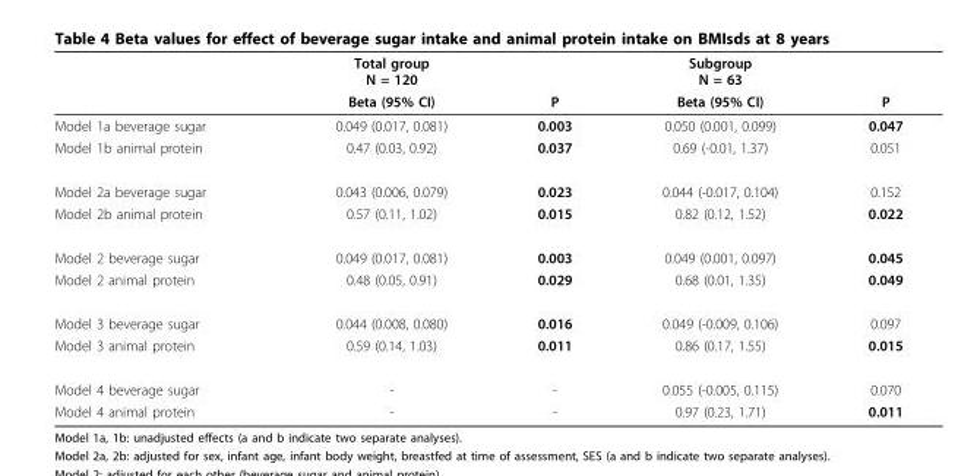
<table><thead><tr><td rowspan="2"></td><td rowspan="2">Total group N = 120 Beta (95% CI)</td><td rowspan="2">P</td><td rowspan="2">Subgroup N = 63 Beta (95% CI)</td><td rowspan="2">P</td></tr><tr></tr></thead><tbody><tr><td>Model 1a beverage sugar</td><td>0.049 (0.017, 0.081)</td><td>0.003</td><td>0.050 (0.001, 0.099)</td><td>0.047</td></tr><tr><td>Model 1b animal protein</td><td>0.47 (0.03, 0.92)</td><td>0.037</td><td>0.69 (-0.01, 1.37)</td><td>0.051</td></tr><tr><td>Model 2a beverage sugar</td><td>0.043 (0.006, 0.079)</td><td>0.023</td><td>0.044 (-0.017, 0.104)</td><td>0.152</td></tr><tr><td>Model 2b animal protein</td><td>0.57 (0.11, 1.02)</td><td>0.015</td><td>0.82 (0.12, 1.52)</td><td>0.022</td></tr><tr><td>Model 2 beverage sugar</td><td>0.049 (0.017, 0.081)</td><td>0.003</td><td>0.049 (0.001, 0.097)</td><td>0.045</td></tr><tr><td>Model 2 animal protein</td><td>0.48 (0.05, 0.91)</td><td>0.029</td><td>0.68 (0.01, 1.35)</td><td>0.049</td></tr><tr><td>Model 3 beverage sugar</td><td>0.044 (0.008, 0.080)</td><td>0.016</td><td>0.049 (-0.009, 0.106)</td><td>0.097</td></tr><tr><td>Model 3 animal protein</td><td>0.59 (0.14, 1.03)</td><td>0.011</td><td>0.86 (0.17, 1.55)</td><td>0.015</td></tr><tr><td>Model 4 beverage sugar</td><td>-</td><td>-</td><td>0.055 (-0.005, 0.115)</td><td>0.070</td></tr><tr><td>Model 4 animal protein</td><td>-</td><td>-</td><td>0.97 (0.23, 1.71)</td><td>0.011</td></tr></tbody></table>